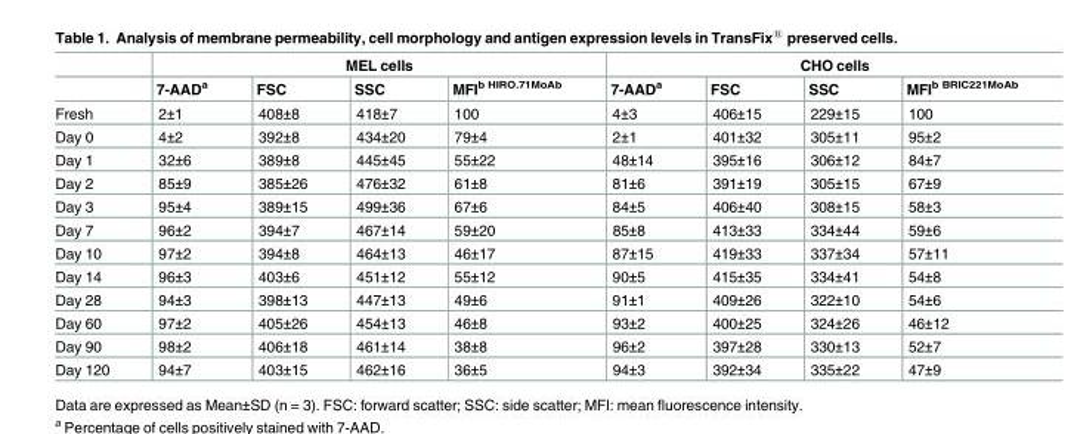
<table><thead><tr><td rowspan="2"></td><td colspan="4">MEL cells</td><td colspan="4">CHO cells</td></tr><tr><td>7-AAD<sup>a</sup></td><td>FSC</td><td>SSC</td><td>MFI<sup>b HIRO.71MoAb</sup></td><td>7-AAD<sup>a</sup></td><td>FSC</td><td>SSC</td><td>MFI<sup>b BRIC221MoAb</sup></td></tr></thead><tbody><tr><td>Fresh</td><td>2±1</td><td>408±8</td><td>418±7</td><td>100</td><td>4±3</td><td>406±15</td><td>229±15</td><td>100</td></tr><tr><td>Day 0</td><td>4±2</td><td>392±8</td><td>434±20</td><td>79±4</td><td>2±1</td><td>401±32</td><td>305±11</td><td>95±2</td></tr><tr><td>Day 1</td><td>32±6</td><td>389±8</td><td>445±45</td><td>55±22</td><td>48±14</td><td>395±16</td><td>306±12</td><td>84±7</td></tr><tr><td>Day 2</td><td>85±9</td><td>385±26</td><td>476±32</td><td>61±8</td><td>81±6</td><td>391±19</td><td>305±15</td><td>67±9</td></tr><tr><td>Day 3</td><td>95±4</td><td>389±15</td><td>499±36</td><td>67±6</td><td>84±5</td><td>406±40</td><td>308±15</td><td>58±3</td></tr><tr><td>Day 7</td><td>96±2</td><td>394±7</td><td>467±14</td><td>59±20</td><td>85±8</td><td>413±33</td><td>334±44</td><td>59±6</td></tr><tr><td>Day 10</td><td>97±2</td><td>394±8</td><td>464±13</td><td>46±17</td><td>87±15</td><td>419±33</td><td>337±34</td><td>57±11</td></tr><tr><td>Day 14</td><td>96±3</td><td>403±6</td><td>451±12</td><td>55±12</td><td>90±5</td><td>415±35</td><td>334±41</td><td>54±8</td></tr><tr><td>Day 28</td><td>94±3</td><td>398±13</td><td>447±13</td><td>49±6</td><td>91±1</td><td>409±26</td><td>322±10</td><td>54±6</td></tr><tr><td>Day 60</td><td>97±2</td><td>405±26</td><td>454±13</td><td>46±8</td><td>93±2</td><td>400±25</td><td>324±26</td><td>46±12</td></tr><tr><td>Day 90</td><td>98±2</td><td>406±18</td><td>461±14</td><td>38±8</td><td>96±2</td><td>397±28</td><td>330±13</td><td>52±7</td></tr><tr><td>Day 120</td><td>94±7</td><td>403±15</td><td>462±16</td><td>36±5</td><td>94±3</td><td>392±34</td><td>335±22</td><td>47±9</td></tr></tbody></table>